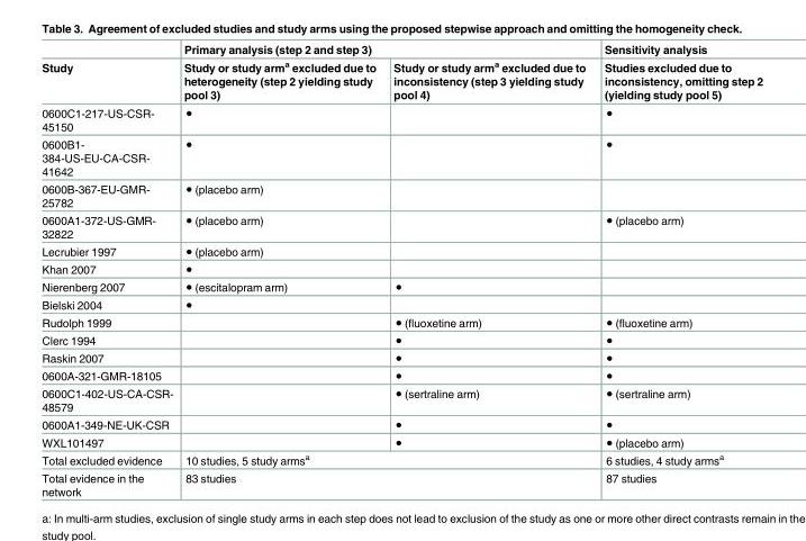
<table><thead><tr><td rowspan="2">Study</td><td colspan="2">Primary analysis (step 2 and step 3)</td><td rowspan="2">Sensitivity analysis Studies excluded due to inconsistency, omitting step 2 (yielding study pool 5)</td></tr><tr><td>Study or study arm<sup>a</sup> excluded due to heterogeneity (step 2 yielding study pool 3)</td><td>Study or study arm<sup>a</sup> excluded due to inconsistency (step 3 yielding study pool 4)</td></tr></thead><tbody><tr><td>0600C1-217-US-CSR- 45150</td><td>●</td><td></td><td>●</td></tr><tr><td>0600B1- 384-US-EU-CA-CSR- 41642</td><td>●</td><td></td><td>●</td></tr><tr><td>0600B-367-EU-GMR- 25782</td><td>● (placebo arm)</td><td></td><td></td></tr><tr><td>0600A1-372-US-GMR- 32822</td><td>● (placebo arm)</td><td></td><td>● (placebo arm)</td></tr><tr><td>Lecrubier 1997</td><td>● (placebo arm)</td><td></td><td></td></tr><tr><td>Khan 2007</td><td>●</td><td></td><td></td></tr><tr><td>Nierenberg 2007</td><td>● (escitalopram arm)</td><td>●</td><td></td></tr><tr><td>Bielski 2004</td><td>●</td><td></td><td></td></tr><tr><td>Rudolph 1999</td><td></td><td>● (fluoxetine arm)</td><td>● (fluoxetine arm)</td></tr><tr><td>Clerc 1994</td><td></td><td>●</td><td>●</td></tr><tr><td>Raskin 2007</td><td></td><td>●</td><td>●</td></tr><tr><td>0600A-321-GMR-18105</td><td></td><td>●</td><td>●</td></tr><tr><td>0600C1-402-US-CA-CSR- 48579</td><td></td><td>● (sertraline arm)</td><td>● (sertraline arm)</td></tr><tr><td>0600A1-349-NE-UK-CSR</td><td></td><td>●</td><td>●</td></tr><tr><td>WXL101497</td><td></td><td>●</td><td>● (placebo arm)</td></tr><tr><td>Total excluded evidence</td><td colspan="2">10 studies, 5 study arms<sup>a</sup></td><td>6 studies, 4 study arms<sup>a</sup></td></tr><tr><td>Total evidence in the network</td><td colspan="2">83 studies</td><td>87 studies</td></tr></tbody></table>